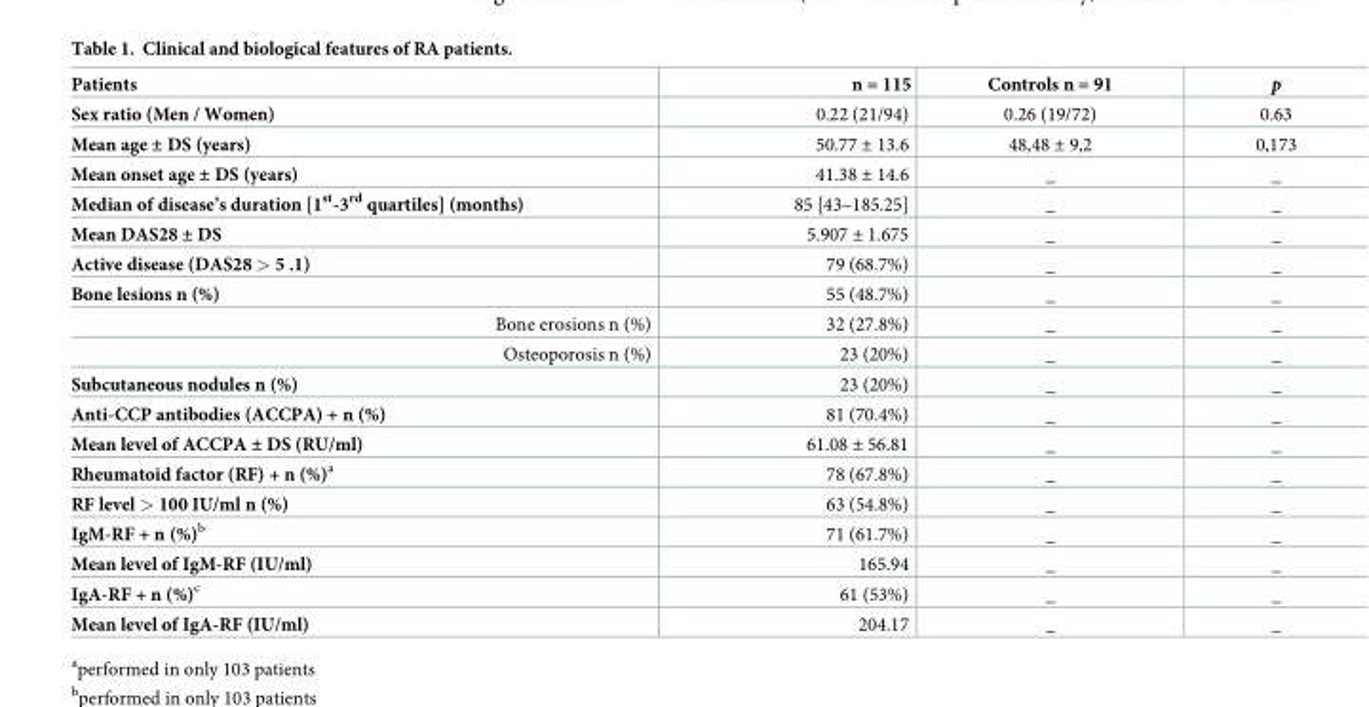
<table><thead><tr><td>Patients</td><td>n = 115</td><td>Controls n = 91</td><td>p</td></tr></thead><tbody><tr><td>Sex ratio (Men / Women)</td><td>0.22 (21/94)</td><td>0.26 (19/72)</td><td>0.63</td></tr><tr><td>Mean age ± DS (years)</td><td>50.77 ± 13.6</td><td>48,48 ± 9,2</td><td>0,173</td></tr><tr><td>Mean onset age ± DS (years)</td><td>41.38 ± 14.6</td><td>_</td><td>_</td></tr><tr><td>Median of disease’s duration [1<sup>st</sup>-3<sup>rd</sup> quartiles] (months)</td><td>85 [43–185.25]</td><td>_</td><td>_</td></tr><tr><td>Mean DAS28 ± DS</td><td>5.907 ± 1.675</td><td>_</td><td>_</td></tr><tr><td>Active disease (DAS28 &gt; 5 .1)</td><td>79 (68.7%)</td><td>_</td><td>_</td></tr><tr><td>Bone lesions n (%)</td><td>55 (48.7%)</td><td>_</td><td>_</td></tr><tr><td>Bone erosions n (%)</td><td>32 (27.8%)</td><td>_</td><td>_</td></tr><tr><td>Osteoporosis n (%)</td><td>23 (20%)</td><td>_</td><td>_</td></tr><tr><td>Subcutaneous nodules n (%)</td><td>23 (20%)</td><td>_</td><td>_</td></tr><tr><td>Anti-CCP antibodies (ACCPA) + n (%)</td><td>81 (70.4%)</td><td>_</td><td>_</td></tr><tr><td>Mean level of ACCPA ± DS (RU/ml)</td><td>61.08 ± 56.81</td><td>_</td><td>_</td></tr><tr><td>Rheumatoid factor (RF) + n (%)<sup>a</sup></td><td>78 (67.8%)</td><td>_</td><td>_</td></tr><tr><td>RF level &gt; 100 IU/ml n (%)</td><td>63 (54.8%)</td><td>_</td><td>_</td></tr><tr><td>IgM-RF + n (%)<sup>b</sup></td><td>71 (61.7%)</td><td>_</td><td>_</td></tr><tr><td>Mean level of IgM-RF (IU/ml)</td><td>165.94</td><td>_</td><td>_</td></tr><tr><td>IgA-RF + n (%)<sup>c</sup></td><td>61 (53%)</td><td>_</td><td>_</td></tr><tr><td>Mean level of IgA-RF (IU/ml)</td><td>204.17</td><td>_</td><td>_</td></tr></tbody></table>